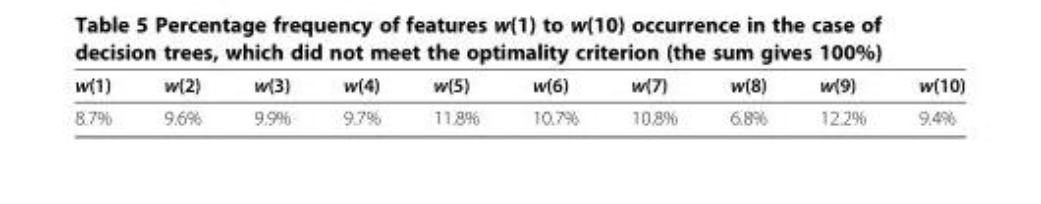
<table><thead><tr><td>w(1)</td><td>w(2)</td><td>w(3)</td><td>w(4)</td><td>w(5)</td><td>w(6)</td><td>w(7)</td><td>w(8)</td><td>w(9)</td><td>w(10)</td></tr></thead><tbody><tr><td>8.7%</td><td>9.6%</td><td>9.9%</td><td>9.7%</td><td>11.8%</td><td>10.7%</td><td>10.8%</td><td>6.8%</td><td>12.2%</td><td>9.4%</td></tr></tbody></table>